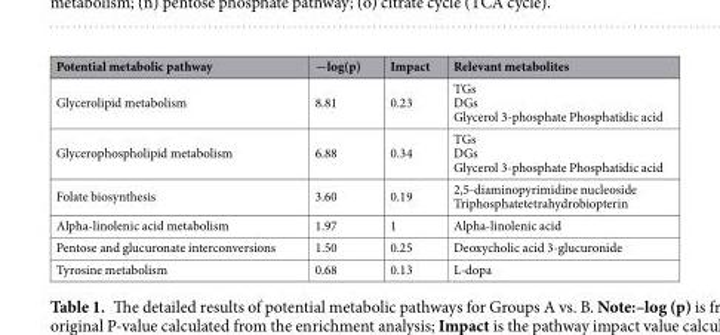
<table><thead><tr><td>Potential metabolic pathway</td><td>−log(p)</td><td>Impact</td><td>Relevant metabolites</td></tr></thead><tbody><tr><td>Glycerolipid metabolism</td><td>8.81</td><td>0.23</td><td>TGs DGs Glycerol 3-phosphate Phosphatidic acid</td></tr><tr><td>Glycerophospholipid metabolism</td><td>6.88</td><td>0.34</td><td>TGs DGs Glycerol 3-phosphate Phosphatidic acid</td></tr><tr><td>Folate biosynthesis</td><td>3.60</td><td>0.19</td><td>2,5-diaminopyrimidine nucleoside Triphosphatetetrahydrobiopterin</td></tr><tr><td>Alpha-linolenic acid metabolism</td><td>1.97</td><td>1</td><td>Alpha-linolenic acid</td></tr><tr><td>Pentose and glucuronate interconversions</td><td>1.50</td><td>0.25</td><td>Deoxycholic acid 3-glucuronide</td></tr><tr><td>Tyrosine metabolism</td><td>0.68</td><td>0.13</td><td>L-dopa</td></tr></tbody></table>